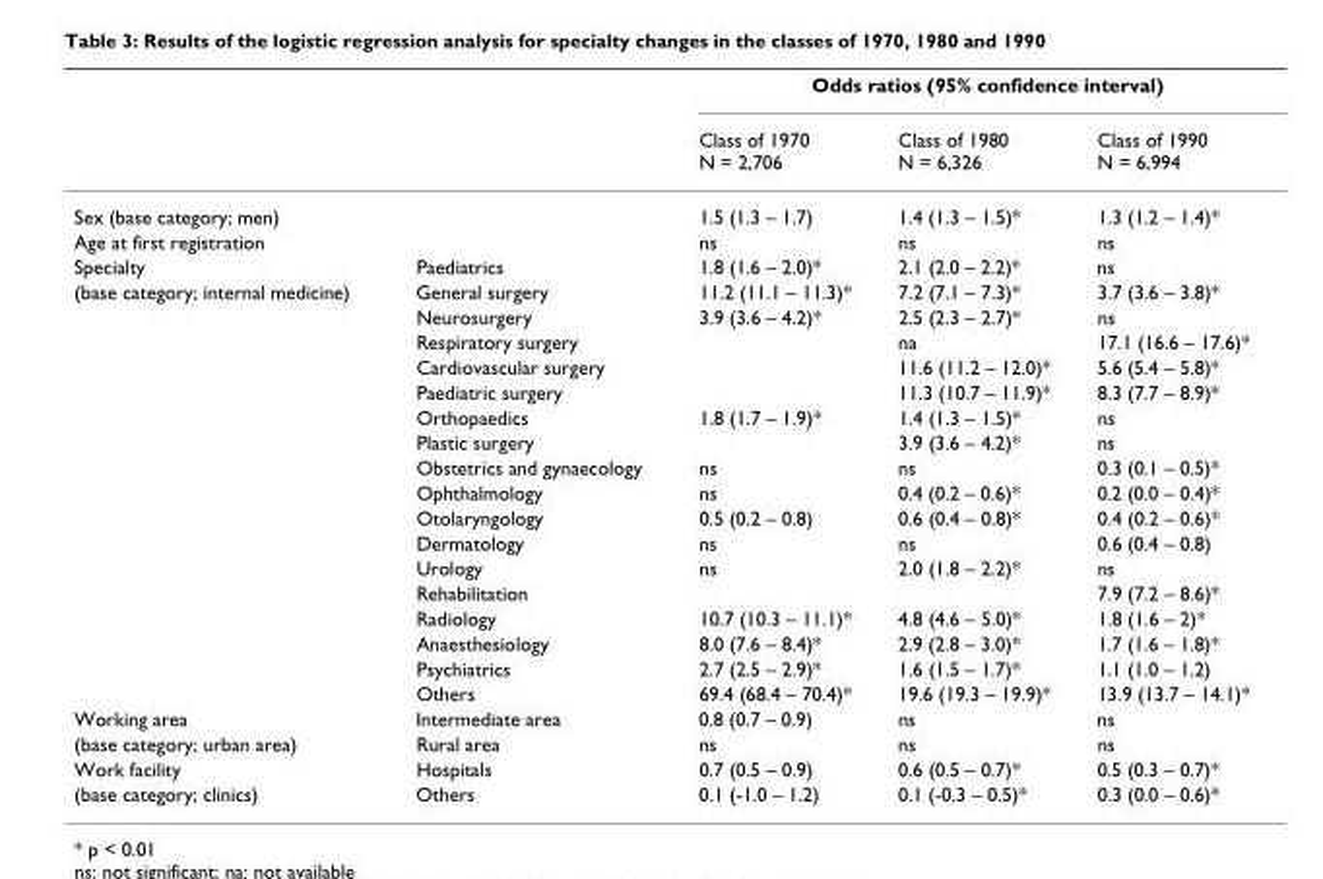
<table><thead><tr><td rowspan="2"></td><td rowspan="2"></td><td colspan="3">Odds ratios (95% confidence interval)</td></tr><tr><td>Class of 1970 N = 2,706</td><td>Class of 1980 N = 6,326</td><td>Class of 1990 N = 6,994</td></tr></thead><tbody><tr><td colspan="2">Sex (base category; men)</td><td>1.5 (1.3 – 1.7)</td><td>1.4 (1.3 – 1.5)*</td><td>1.3 (1.2 – 1.4)*</td></tr><tr><td colspan="2">Age at first registration</td><td>ns</td><td>ns</td><td>ns</td></tr><tr><td>Specialty</td><td>Paediatrics</td><td>1.8 (1.6 – 2.0)*</td><td>2.1 (2.0 – 2.2)*</td><td>ns</td></tr><tr><td rowspan="17">(base category; internal medicine)</td><td>General surgery</td><td>11.2 (11.1 – 11.3)*</td><td>7.2 (7.1 – 7.3)*</td><td>3.7 (3.6 – 3.8)*</td></tr><tr><td>Neurosurgery</td><td>3.9 (3.6 – 4.2)*</td><td>2.5 (2.3 – 2.7)*</td><td>ns</td></tr><tr><td>Respiratory surgery</td><td></td><td>na</td><td>17.1 (16.6 – 17.6)*</td></tr><tr><td>Cardiovascular surgery</td><td></td><td>11.6 (11.2 – 12.0)*</td><td>5.6 (5.4 – 5.8)*</td></tr><tr><td>Paediatric surgery</td><td></td><td>11.3 (10.7 – 11.9)*</td><td>8.3 (7.7 – 8.9)*</td></tr><tr><td>Orthopaedics</td><td>1.8 (1.7 – 1.9)*</td><td>1.4 (1.3 – 1.5)*</td><td>ns</td></tr><tr><td>Plastic surgery</td><td></td><td>3.9 (3.6 – 4.2)*</td><td>ns</td></tr><tr><td>Obstetrics and gynaecology</td><td>ns</td><td>ns</td><td>0.3 (0.1 – 0.5)*</td></tr><tr><td>Ophthalmology</td><td>ns</td><td>0.4 (0.2 – 0.6)*</td><td>0.2 (0.0 – 0.4)*</td></tr><tr><td>Otolaryngology</td><td>0.5 (0.2 – 0.8)</td><td>0.6 (0.4 – 0.8)*</td><td>0.4 (0.2 – 0.6)*</td></tr><tr><td>Dermatology</td><td>ns</td><td>ns</td><td>0.6 (0.4 – 0.8)</td></tr><tr><td>Urology</td><td>ns</td><td>2.0 (1.8 – 2.2)*</td><td>ns</td></tr><tr><td>Rehabilitation</td><td></td><td></td><td>7.9 (7.2 – 8.6)*</td></tr><tr><td>Radiology</td><td>10.7 (10.3 – 11.1)*</td><td>4.8 (4.6 – 5.0)*</td><td>1.8 (1.6 – 2)*</td></tr><tr><td>Anaesthesiology</td><td>8.0 (7.6 – 8.4)*</td><td>2.9 (2.8 – 3.0)*</td><td>1.7 (1.6 – 1.8)*</td></tr><tr><td>Psychiatrics</td><td>2.7 (2.5 – 2.9)*</td><td>1.6 (1.5 – 1.7)*</td><td>1.1 (1.0 – 1.2)</td></tr><tr><td>Others</td><td>69.4 (68.4 – 70.4)*</td><td>19.6 (19.3 – 19.9)*</td><td>13.9 (13.7 – 14.1)*</td></tr><tr><td>Working area</td><td>Intermediate area</td><td>0.8 (0.7 – 0.9)</td><td>ns</td><td>ns</td></tr><tr><td>(base category; urban area)</td><td>Rural area</td><td>ns</td><td>ns</td><td>ns</td></tr><tr><td>Work facility</td><td>Hospitals</td><td>0.7 (0.5 – 0.9)</td><td>0.6 (0.5 – 0.7)*</td><td>0.5 (0.3 – 0.7)*</td></tr><tr><td>(base category; clinics)</td><td>Others</td><td>0.1 (-1.0 – 1.2)</td><td>0.1 (-0.3 – 0.5)*</td><td>0.3 (0.0 – 0.6)*</td></tr></tbody></table>